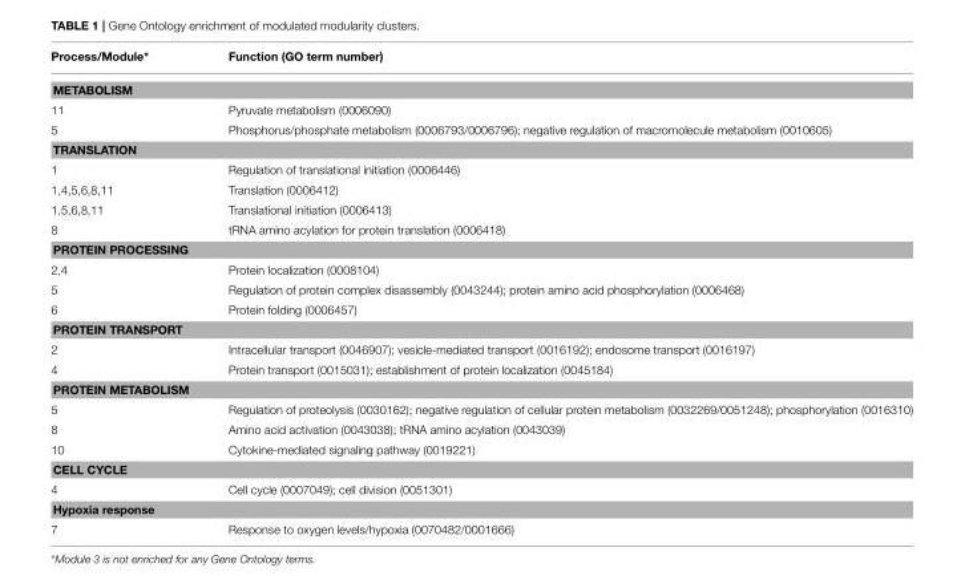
<table><thead><tr><td>Process/Module*</td><td>Function (GO term number)</td></tr></thead><tbody><tr><td colspan="2">METABOLISM</td></tr><tr><td>11</td><td>Pyruvate metabolism (0006090)</td></tr><tr><td>5</td><td>Phosphorus/phosphate metabolism (0006793/0006796); negative regulation of macromolecule metabolism (0010605)</td></tr><tr><td colspan="2">TRANSLATION</td></tr><tr><td>1</td><td>Regulation of translational initiation (0006446)</td></tr><tr><td>1,4,5,6,8,11</td><td>Translation (0006412)</td></tr><tr><td>1,5,6,8,11</td><td>Translational initiation (0006413)</td></tr><tr><td>8</td><td>tRNA amino acylation for protein translation (0006418)</td></tr><tr><td colspan="2">PROTEIN PROCESSING</td></tr><tr><td>2,4</td><td>Protein localization (0008104)</td></tr><tr><td>5</td><td>Regulation of protein complex disassembly (0043244); protein amino acid phosphorylation (0006468)</td></tr><tr><td>6</td><td>Protein folding (0006457)</td></tr><tr><td colspan="2">PROTEIN TRANSPORT</td></tr><tr><td>2</td><td>Intracellular transport (0046907); vesicle-mediated transport (0016192); endosome transport (0016197)</td></tr><tr><td>4</td><td>Protein transport (0015031); establishment of protein localization (0045184)</td></tr><tr><td colspan="2">PROTEIN METABOLISM</td></tr><tr><td>5</td><td>Regulation of proteolysis (0030162); negative regulation of cellular protein metabolism (0032269/0051248); phosphorylation (0016310)</td></tr><tr><td>8</td><td>Amino acid activation (0043038); tRNA amino acylation (0043039)</td></tr><tr><td>10</td><td>Cytokine-mediated signaling pathway (0019221)</td></tr><tr><td colspan="2">CELL CYCLE</td></tr><tr><td>4</td><td>Cell cycle (0007049); cell division (0051301)</td></tr><tr><td colspan="2">Hypoxia response</td></tr><tr><td>7</td><td>Response to oxygen levels/hypoxia (0070482/0001666)</td></tr></tbody></table>